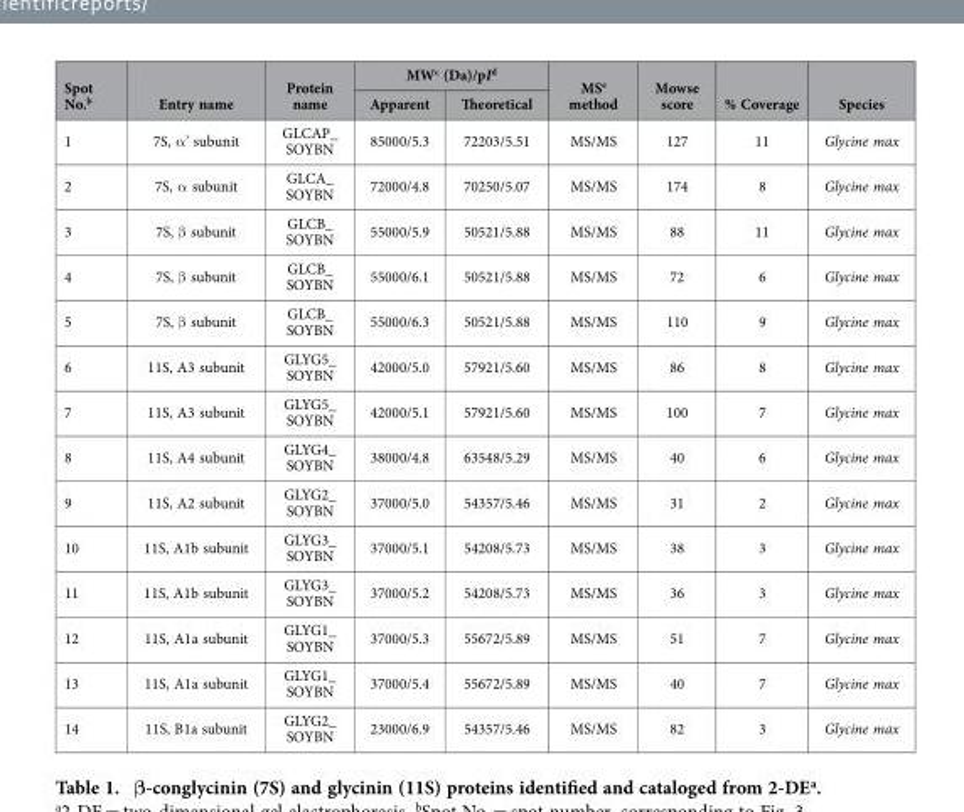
<table><thead><tr><td rowspan="2">Spot No.<sup>b</sup></td><td rowspan="2">Entry name</td><td rowspan="2">Protein name</td><td colspan="2">MW<sup>c</sup> (Da)/pI<sup>d</sup></td><td rowspan="2">MS<sup>e</sup> method</td><td rowspan="2">Mowse score</td><td rowspan="2">% Coverage</td><td rowspan="2">Species</td></tr><tr><td>Apparent</td><td>Theoretical</td></tr></thead><tbody><tr><td>1</td><td>7S, α ’ subunit</td><td>GLCAP_ SOYBN</td><td>85000/5.3</td><td>72203/5.51</td><td>MS/MS</td><td>127</td><td>11</td><td>Glycine max</td></tr><tr><td>2</td><td>7S, α subunit</td><td>GLCA_ SOYBN</td><td>72000/4.8</td><td>70250/5.07</td><td>MS/MS</td><td>174</td><td>8</td><td>Glycine max</td></tr><tr><td>3</td><td>7S, β subunit</td><td>GLCB_ SOYBN</td><td>55000/5.9</td><td>50521/5.88</td><td>MS/MS</td><td>88</td><td>11</td><td>Glycine max</td></tr><tr><td>4</td><td>7S, β subunit</td><td>GLCB_ SOYBN</td><td>55000/6.1</td><td>50521/5.88</td><td>MS/MS</td><td>72</td><td>6</td><td>Glycine max</td></tr><tr><td>5</td><td>7S, β subunit</td><td>GLCB_ SOYBN</td><td>55000/6.3</td><td>50521/5.88</td><td>MS/MS</td><td>110</td><td>9</td><td>Glycine max</td></tr><tr><td>6</td><td>11S, A3 subunit</td><td>GLYG5_ SOYBN</td><td>42000/5.0</td><td>57921/5.60</td><td>MS/MS</td><td>86</td><td>8</td><td>Glycine max</td></tr><tr><td>7</td><td>11S, A3 subunit</td><td>GLYG5_ SOYBN</td><td>42000/5.1</td><td>57921/5.60</td><td>MS/MS</td><td>100</td><td>7</td><td>Glycine max</td></tr><tr><td>8</td><td>11S, A4 subunit</td><td>GLYG4_ SOYBN</td><td>38000/4.8</td><td>63548/5.29</td><td>MS/MS</td><td>40</td><td>6</td><td>Glycine max</td></tr><tr><td>9</td><td>11S, A2 subunit</td><td>GLYG2_ SOYBN</td><td>37000/5.0</td><td>54357/5.46</td><td>MS/MS</td><td>31</td><td>2</td><td>Glycine max</td></tr><tr><td>10</td><td>11S, A1b subunit</td><td>GLYG3_ SOYBN</td><td>37000/5.1</td><td>54208/5.73</td><td>MS/MS</td><td>38</td><td>3</td><td>Glycine max</td></tr><tr><td>11</td><td>11S, A1b subunit</td><td>GLYG3_ SOYBN</td><td>37000/5.2</td><td>54208/5.73</td><td>MS/MS</td><td>36</td><td>3</td><td>Glycine max</td></tr><tr><td>12</td><td>11S, A1a subunit</td><td>GLYG1_ SOYBN</td><td>37000/5.3</td><td>55672/5.89</td><td>MS/MS</td><td>51</td><td>7</td><td>Glycine max</td></tr><tr><td>13</td><td>11S, A1a subunit</td><td>GLYG1_ SOYBN</td><td>37000/5.4</td><td>55672/5.89</td><td>MS/MS</td><td>40</td><td>7</td><td>Glycine max</td></tr><tr><td>14</td><td>11S, B1a subunit</td><td>GLYG2_ SOYBN</td><td>23000/6.9</td><td>54357/5.46</td><td>MS/MS</td><td>82</td><td>3</td><td>Glycine max</td></tr></tbody></table>